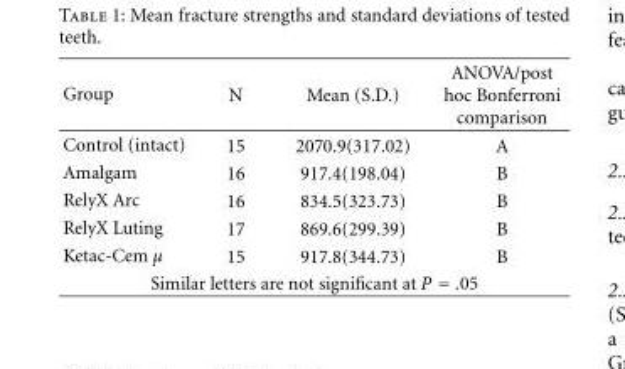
<table><thead><tr><td>Group</td><td>N</td><td>Mean (S.D.)</td><td>ANOVA/post hoc Bonferroni comparison</td></tr></thead><tbody><tr><td>Control (intact)</td><td>15</td><td>2070.9(317.02)</td><td>A</td></tr><tr><td>Amalgam</td><td>16</td><td>917.4(198.04)</td><td>B</td></tr><tr><td>RelyX Arc</td><td>16</td><td>834.5(323.73)</td><td>B</td></tr><tr><td>RelyX Luting</td><td>17</td><td>869.6(299.39)</td><td>B</td></tr><tr><td>Ketac-Cem μ</td><td>15</td><td>917.8(344.73)</td><td>B</td></tr><tr><td colspan="4">Similar letters are not significant at P = .05</td></tr></tbody></table>